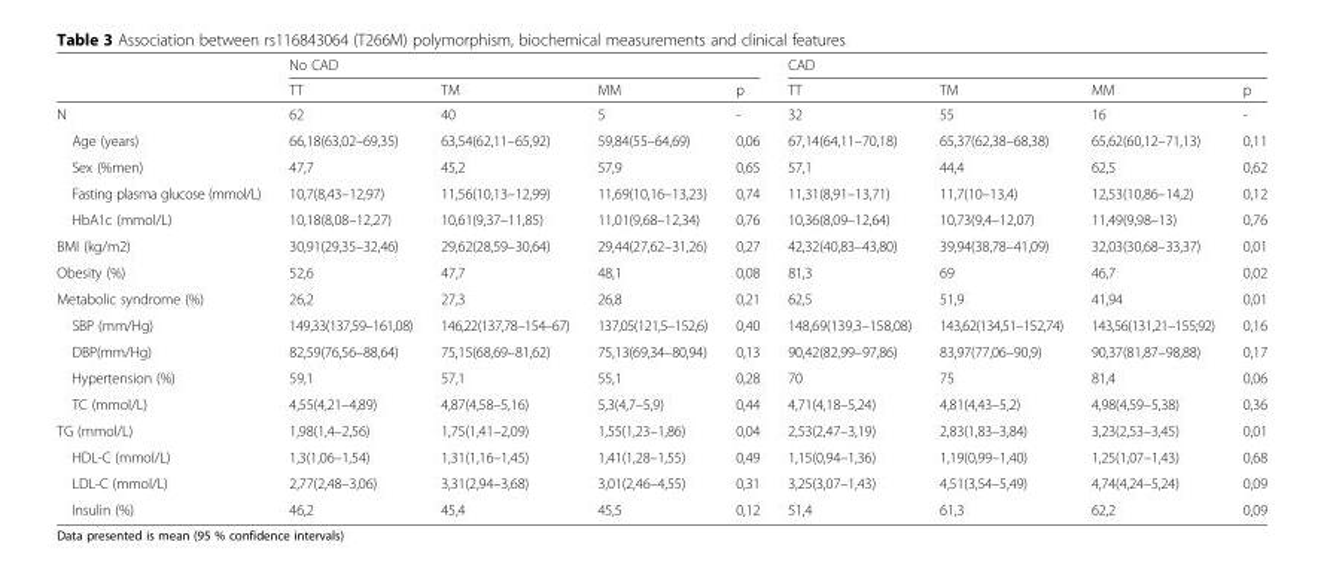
<table><thead><tr><td rowspan="2"></td><td colspan="4">No CAD</td><td colspan="4">CAD</td></tr><tr><td>TT</td><td>TM</td><td>MM</td><td>p</td><td>TT</td><td>TM</td><td>MM</td><td>p</td></tr></thead><tbody><tr><td>N</td><td>62</td><td>40</td><td>5</td><td>-</td><td>32</td><td>55</td><td>16</td><td>-</td></tr><tr><td>Age (years)</td><td>66,18(63,02–69,35)</td><td>63,54(62,11–65,92)</td><td>59,84(55–64,69)</td><td>0,06</td><td>67,14(64,11–70,18)</td><td>65,37(62,38–68,38)</td><td>65,62(60,12–71,13)</td><td>0,11</td></tr><tr><td>Sex (%men)</td><td>47,7</td><td>45,2</td><td>57,9</td><td>0,65</td><td>57,1</td><td>44,4</td><td>62,5</td><td>0,62</td></tr><tr><td>Fasting plasma glucose (mmol/L)</td><td>10,7(8,43–12,97)</td><td>11,56(10,13–12,99)</td><td>11,69(10,16–13,23)</td><td>0,74</td><td>11,31(8,91–13,71)</td><td>11,7(10–13,4)</td><td>12,53(10,86–14,2)</td><td>0,12</td></tr><tr><td>HbA1c (mmol/L)</td><td>10,18(8,08–12,27)</td><td>10,61(9,37–11,85)</td><td>11,01(9,68–12,34)</td><td>0,76</td><td>10,36(8,09–12,64)</td><td>10,73(9,4–12,07)</td><td>11,49(9,98–13)</td><td>0,76</td></tr><tr><td>BMI (kg/m2)</td><td>30,91(29,35–32,46)</td><td>29,62(28,59–30,64)</td><td>29,44(27,62–31,26)</td><td>0,27</td><td>42,32(40,83–43,80)</td><td>39,94(38,78–41,09)</td><td>32,03(30,68–33,37)</td><td>0,01</td></tr><tr><td>Obesity (%)</td><td>52,6</td><td>47,7</td><td>48,1</td><td>0,08</td><td>81,3</td><td>69</td><td>46,7</td><td>0,02</td></tr><tr><td>Metabolic syndrome (%)</td><td>26,2</td><td>27,3</td><td>26,8</td><td>0,21</td><td>62,5</td><td>51,9</td><td>41,94</td><td>0,01</td></tr><tr><td>SBP (mm/Hg)</td><td>149,33(137,59–161,08)</td><td>146,22(137,78–154–67)</td><td>137,05(121,5–152,6)</td><td>0,40</td><td>148,69(139,3–158,08)</td><td>143,62(134,51–152,74)</td><td>143,56(131,21–155;92)</td><td>0,16</td></tr><tr><td>DBP(mm/Hg)</td><td>82,59(76,56–88,64)</td><td>75,15(68,69–81,62)</td><td>75,13(69,34–80,94)</td><td>0,13</td><td>90,42(82,99–97,86)</td><td>83,97(77,06–90,9)</td><td>90,37(81,87–98,88)</td><td>0,17</td></tr><tr><td>Hypertension (%)</td><td>59,1</td><td>57,1</td><td>55,1</td><td>0,28</td><td>70</td><td>75</td><td>81,4</td><td>0,06</td></tr><tr><td>TC (mmol/L)</td><td>4,55(4,21–4,89)</td><td>4,87(4,58–5,16)</td><td>5,3(4,7–5,9)</td><td>0,44</td><td>4,71(4,18–5,24)</td><td>4,81(4,43–5,2)</td><td>4,98(4,59–5,38)</td><td>0,36</td></tr><tr><td>TG (mmol/L)</td><td>1,98(1,4–2,56)</td><td>1,75(1,41–2,09)</td><td>1,55(1,23–1,86)</td><td>0,04</td><td>2,53(2,47–3,19)</td><td>2,83(1,83–3,84)</td><td>3,23(2,53–3,45)</td><td>0,01</td></tr><tr><td>HDL-C (mmol/L)</td><td>1,3(1,06–1,54)</td><td>1,31(1,16–1,45)</td><td>1,41(1,28–1,55)</td><td>0,49</td><td>1,15(0,94–1,36)</td><td>1,19(0,99–1,40)</td><td>1,25(1,07–1,43)</td><td>0,68</td></tr><tr><td>LDL-C (mmol/L)</td><td>2,77(2,48–3,06)</td><td>3,31(2,94–3,68)</td><td>3,01(2,46–4,55)</td><td>0,31</td><td>3,25(3,07–1,43)</td><td>4,51(3,54–5,49)</td><td>4,74(4,24–5,24)</td><td>0,09</td></tr><tr><td>Insulin (%)</td><td>46,2</td><td>45,4</td><td>45,5</td><td>0,12</td><td>51,4</td><td>61,3</td><td>62,2</td><td>0,09</td></tr></tbody></table>